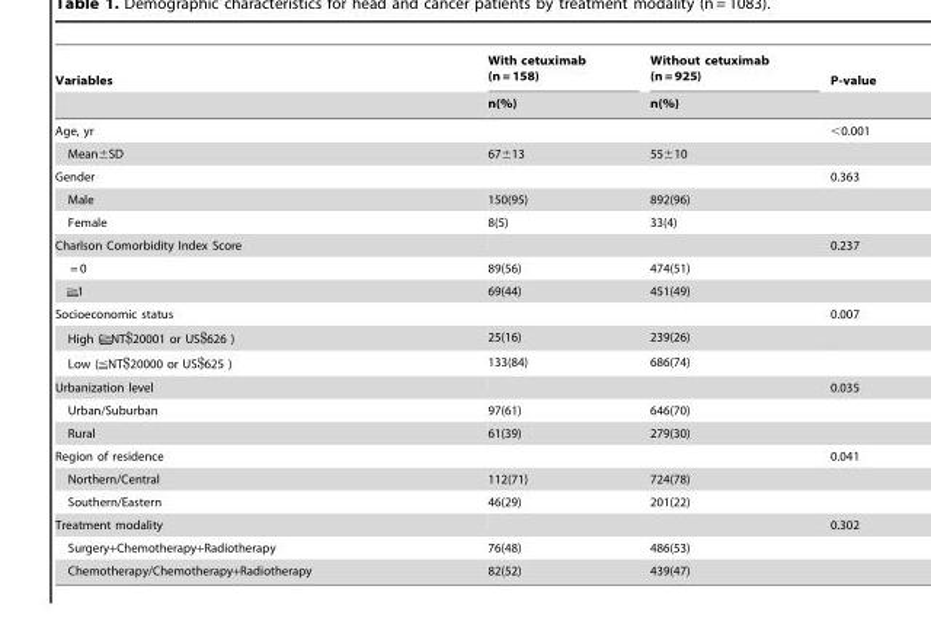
<table><thead><tr><td rowspan="2">Variables</td><td rowspan="2">With cetuximab (n = 158) n(%)</td><td rowspan="2">Without cetuximab (n = 925) n(%)</td><td rowspan="2">P-value</td></tr><tr></tr></thead><tbody><tr><td>Age, yr</td><td></td><td></td><td>&lt;0.001</td></tr><tr><td>Mean±SD</td><td>67±13</td><td>55±10</td><td></td></tr><tr><td>Gender</td><td></td><td></td><td>0.363</td></tr><tr><td>Male</td><td>150(95)</td><td>892(96)</td><td></td></tr><tr><td>Female</td><td>8(5)</td><td>33(4)</td><td></td></tr><tr><td>Charlson Comorbidity Index Score</td><td></td><td></td><td>0.237</td></tr><tr><td>= 0</td><td>89(56)</td><td>474(51)</td><td></td></tr><tr><td>1</td><td>69(44)</td><td>451(49)</td><td></td></tr><tr><td>Socioeconomic status</td><td></td><td></td><td>0.007</td></tr><tr><td>High ( NT$20001 or US$626 )</td><td>25(16)</td><td>239(26)</td><td></td></tr><tr><td>Low ( NT$20000 or US$625 )</td><td>133(84)</td><td>686(74)</td><td></td></tr><tr><td>Urbanization level</td><td></td><td></td><td>0.035</td></tr><tr><td>Urban/Suburban</td><td>97(61)</td><td>646(70)</td><td></td></tr><tr><td>Rural</td><td>61(39)</td><td>279(30)</td><td></td></tr><tr><td>Region of residence</td><td></td><td></td><td>0.041</td></tr><tr><td>Northern/Central</td><td>112(71)</td><td>724(78)</td><td></td></tr><tr><td>Southern/Eastern</td><td>46(29)</td><td>201(22)</td><td></td></tr><tr><td>Treatment modality</td><td></td><td></td><td>0.302</td></tr><tr><td>Surgery+Chemotherapy+Radiotherapy</td><td>76(48)</td><td>486(53)</td><td></td></tr><tr><td>Chemotherapy/Chemotherapy+Radiotherapy</td><td>82(52)</td><td>439(47)</td><td></td></tr></tbody></table>